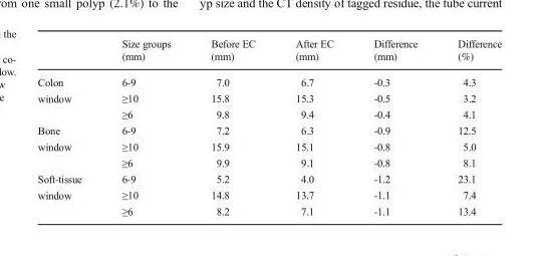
<table><thead><tr><td rowspan="2"></td><td rowspan="2">Size groups (mm)</td><td rowspan="2">Before EC (mm)</td><td rowspan="2">After EC (mm)</td><td rowspan="2">Difference (mm)</td><td rowspan="2">Difference (%)</td></tr><tr></tr></thead><tbody><tr><td rowspan="3">Colon window</td><td>6-9</td><td>7.0</td><td>6.7</td><td>-0.3</td><td>4.3</td></tr><tr><td>≥10</td><td>15.8</td><td>15.3</td><td>-0.5</td><td>3.2</td></tr><tr><td>≥6</td><td>9.8</td><td>9.4</td><td>-0.4</td><td>4.1</td></tr><tr><td rowspan="3">Bone window</td><td>6-9</td><td>7.2</td><td>6.3</td><td>-0.9</td><td>12.5</td></tr><tr><td>≥10</td><td>15.9</td><td>15.1</td><td>-0.8</td><td>5.0</td></tr><tr><td>≥6</td><td>9.9</td><td>9.1</td><td>-0.8</td><td>8.1</td></tr><tr><td rowspan="3">Soft-tissue window</td><td>6-9</td><td>5.2</td><td>4.0</td><td>-1.2</td><td>23.1</td></tr><tr><td>≥10</td><td>14.8</td><td>13.7</td><td>-1.1</td><td>7.4</td></tr><tr><td>≥6</td><td>8.2</td><td>7.1</td><td>-1.1</td><td>13.4</td></tr></tbody></table>